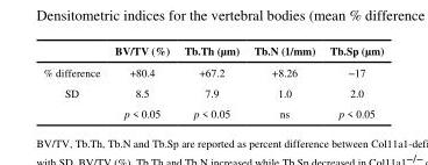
<table><thead><tr><td></td><td>BV/TV (%)</td><td>Tb.Th (μm)</td><td>Tb.N (1/mm)</td><td>Tb.Sp (μm)</td></tr></thead><tbody><tr><td>% difference</td><td>+80.4</td><td>+67.2</td><td>+8.26</td><td>−17</td></tr><tr><td rowspan="2">SD</td><td>8.5</td><td>7.9</td><td>1.0</td><td>2.0</td></tr><tr><td>p &lt; 0.05</td><td>p &lt; 0.05</td><td>ns</td><td>p &lt; 0.05</td></tr></tbody></table>